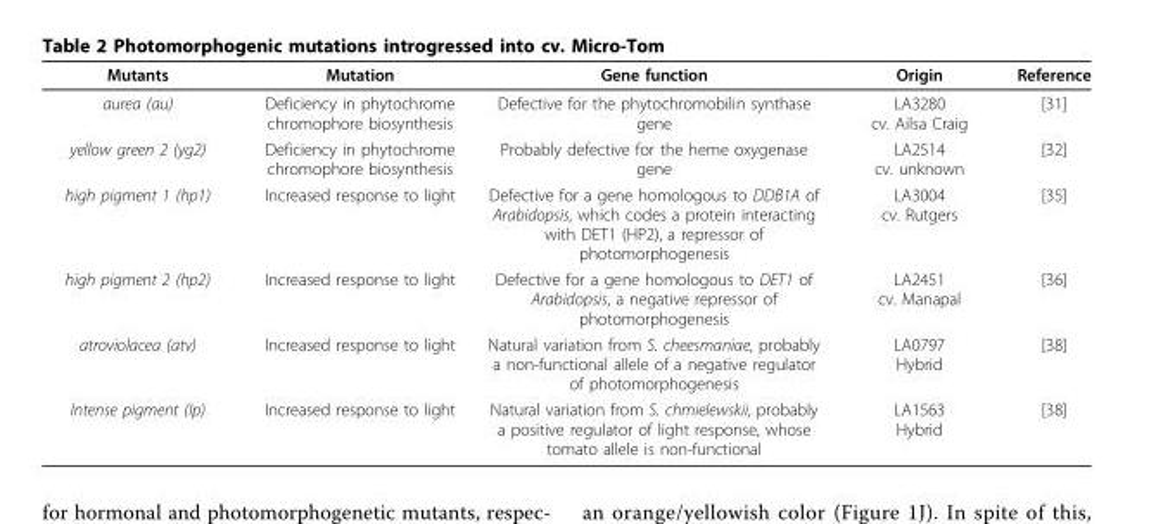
<table><thead><tr><td>Mutants</td><td>Mutation</td><td>Gene function</td><td>Origin</td><td>Reference</td></tr></thead><tbody><tr><td>aurea (au)</td><td>Deficiency in phytochrome chromophore biosynthesis</td><td>Defective for the phytochromobilin synthase gene</td><td>LA3280 cv. Ailsa Craig</td><td>[31]</td></tr><tr><td>yellow green 2 (yg2)</td><td>Deficiency in phytochrome chromophore biosynthesis</td><td>Probably defective for the heme oxygenase gene</td><td>LA2514 cv. unknown</td><td>[32]</td></tr><tr><td>high pigment 1 (hp1)</td><td>Increased response to light</td><td>Defective for a gene homologous to DDB1A of Arabidopsis, which codes a protein interacting with DET1 (HP2), a repressor of photomorphogenesis</td><td>LA3004 cv. Rutgers</td><td>[35]</td></tr><tr><td>high pigment 2 (hp2)</td><td>Increased response to light</td><td>Defective for a gene homologous to DET1 of Arabidopsis, a negative repressor of photomorphogenesis</td><td>LA2451 cv. Manapal</td><td>[36]</td></tr><tr><td>atroviolacea (atv)</td><td>Increased response to light</td><td>Natural variation from S. cheesmaniae, probably a non-functional allele of a negative regulator of photomorphogenesis</td><td>LA0797 Hybrid</td><td>[38]</td></tr><tr><td>Intense pigment (Ip)</td><td>Increased response to light</td><td>Natural variation from S. chmielewskii, probably a positive regulator of light response, whose tomato allele is non-functional</td><td>LA1563 Hybrid</td><td>[38]</td></tr></tbody></table>